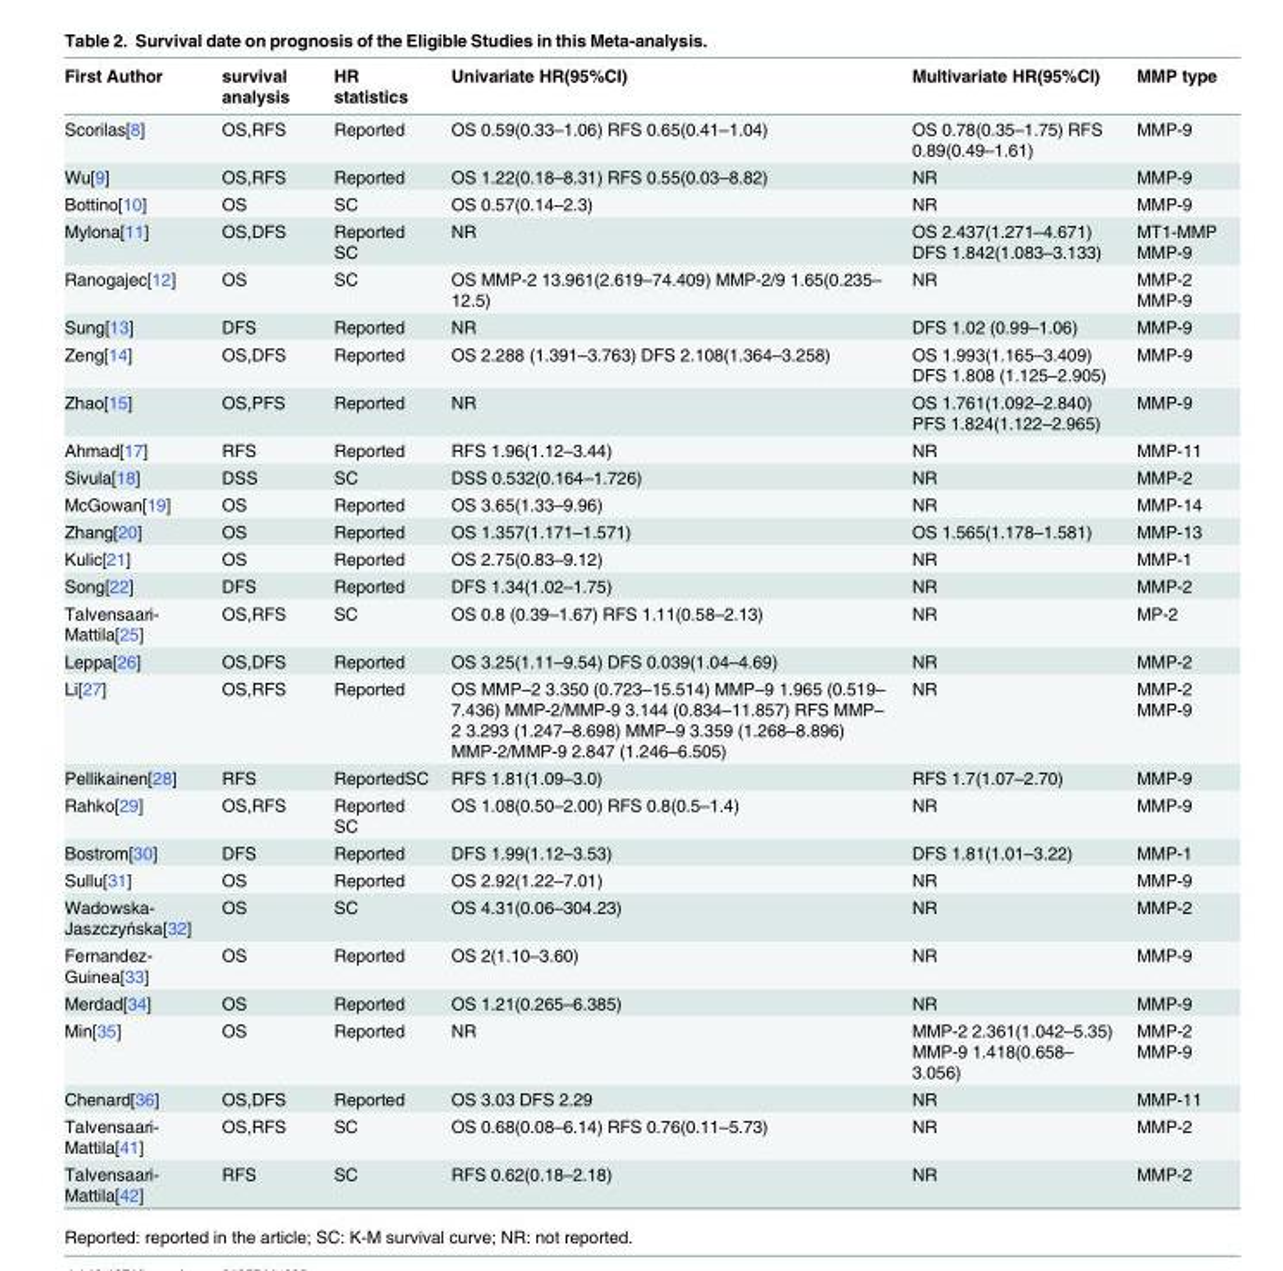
<table><thead><tr><td>First Author</td><td>survival analysis</td><td>HR statistics</td><td>Univariate HR(95%CI)</td><td>Multivariate HR(95%CI)</td><td>MMP type</td></tr></thead><tbody><tr><td>Scorilas[8]</td><td>OS,RFS</td><td>Reported</td><td>OS 0.59(0.33–1.06) RFS 0.65(0.41–1.04)</td><td>OS 0.78(0.35–1.75) RFS 0.89(0.49–1.61)</td><td>MMP-9</td></tr><tr><td>Wu[9]</td><td>OS,RFS</td><td>Reported</td><td>OS 1.22(0.18–8.31) RFS 0.55(0.03–8.82)</td><td>NR</td><td>MMP-9</td></tr><tr><td>Bottino[10]</td><td>OS</td><td>SC</td><td>OS 0.57(0.14–2.3)</td><td>NR</td><td>MMP-9</td></tr><tr><td>Mylona[11]</td><td>OS,DFS</td><td>Reported SC</td><td>NR</td><td>OS 2.437(1.271–4.671) DFS 1.842(1.083–3.133)</td><td>MT1-MMP MMP-9</td></tr><tr><td>Ranogajec[12]</td><td>OS</td><td>SC</td><td>OS MMP-2 13.961(2.619–74.409) MMP-2/9 1.65(0.235– 12.5)</td><td>NR</td><td>MMP-2 MMP-9</td></tr><tr><td>Sung[13]</td><td>DFS</td><td>Reported</td><td>NR</td><td>DFS 1.02 (0.99–1.06)</td><td>MMP-9</td></tr><tr><td>Zeng[14]</td><td>OS,DFS</td><td>Reported</td><td>OS 2.288 (1.391–3.763) DFS 2.108(1.364–3.258)</td><td>OS 1.993(1.165–3.409) DFS 1.808 (1.125–2.905)</td><td>MMP-9</td></tr><tr><td>Zhao[15]</td><td>OS,PFS</td><td>Reported</td><td>NR</td><td>OS 1.761(1.092–2.840) PFS 1.824(1.122–2.965)</td><td>MMP-9</td></tr><tr><td>Ahmad[17]</td><td>RFS</td><td>Reported</td><td>RFS 1.96(1.12–3.44)</td><td>NR</td><td>MMP-11</td></tr><tr><td>Sivula[18]</td><td>DSS</td><td>SC</td><td>DSS 0.532(0.164–1.726)</td><td>NR</td><td>MMP-2</td></tr><tr><td>McGowan[19]</td><td>OS</td><td>Reported</td><td>OS 3.65(1.33–9.96)</td><td>NR</td><td>MMP-14</td></tr><tr><td>Zhang[20]</td><td>OS</td><td>Reported</td><td>OS 1.357(1.171–1.571)</td><td>OS 1.565(1.178–1.581)</td><td>MMP-13</td></tr><tr><td>Kulic[21]</td><td>OS</td><td>Reported</td><td>OS 2.75(0.83–9.12)</td><td>NR</td><td>MMP-1</td></tr><tr><td>Song[22]</td><td>DFS</td><td>Reported</td><td>DFS 1.34(1.02–1.75)</td><td>NR</td><td>MMP-2</td></tr><tr><td>Talvensaari- Mattila[25]</td><td>OS,RFS</td><td>SC</td><td>OS 0.8 (0.39–1.67) RFS 1.11(0.58–2.13)</td><td>NR</td><td>MP-2</td></tr><tr><td>Leppa[26]</td><td>OS,DFS</td><td>Reported</td><td>OS 3.25(1.11–9.54) DFS 0.039(1.04–4.69)</td><td>NR</td><td>MMP-2</td></tr><tr><td>Li[27]</td><td>OS,RFS</td><td>Reported</td><td>OS MMP–2 3.350 (0.723–15.514) MMP–9 1.965 (0.519– 7.436) MMP-2/MMP-9 3.144 (0.834–11.857) RFS MMP– 2 3.293 (1.247–8.698) MMP–9 3.359 (1.268–8.896) MMP-2/MMP-9 2.847 (1.246–6.505)</td><td>NR</td><td>MMP-2 MMP-9</td></tr><tr><td>Pellikainen[28]</td><td>RFS</td><td>ReportedSC</td><td>RFS 1.81(1.09–3.0)</td><td>RFS 1.7(1.07–2.70)</td><td>MMP-9</td></tr><tr><td>Rahko[29]</td><td>OS,RFS</td><td>Reported SC</td><td>OS 1.08(0.50–2.00) RFS 0.8(0.5–1.4)</td><td>NR</td><td>MMP-9</td></tr><tr><td>Bostrom[30]</td><td>DFS</td><td>Reported</td><td>DFS 1.99(1.12–3.53)</td><td>DFS 1.81(1.01–3.22)</td><td>MMP-1</td></tr><tr><td>Sullu[31]</td><td>OS</td><td>Reported</td><td>OS 2.92(1.22–7.01)</td><td>NR</td><td>MMP-9</td></tr><tr><td>Wadowska- Jaszczyńska[32]</td><td>OS</td><td>SC</td><td>OS 4.31(0.06–304.23)</td><td>NR</td><td>MMP-2</td></tr><tr><td>Fernandez- Guinea[33]</td><td>OS</td><td>Reported</td><td>OS 2(1.10–3.60)</td><td>NR</td><td>MMP-9</td></tr><tr><td>Merdad[34]</td><td>OS</td><td>Reported</td><td>OS 1.21(0.265–6.385)</td><td>NR</td><td>MMP-9</td></tr><tr><td>Min[35]</td><td>OS</td><td>Reported</td><td>NR</td><td>MMP-2 2.361(1.042–5.35) MMP-9 1.418(0.658– 3.056)</td><td>MMP-2 MMP-9</td></tr><tr><td>Chenard[36]</td><td>OS,DFS</td><td>Reported</td><td>OS 3.03 DFS 2.29</td><td>NR</td><td>MMP-11</td></tr><tr><td>Talvensaari- Mattila[41]</td><td>OS,RFS</td><td>SC</td><td>OS 0.68(0.08–6.14) RFS 0.76(0.11–5.73)</td><td>NR</td><td>MMP-2</td></tr><tr><td>Talvensaari- Mattila[42]</td><td>RFS</td><td>SC</td><td>RFS 0.62(0.18–2.18)</td><td>NR</td><td>MMP-2</td></tr></tbody></table>